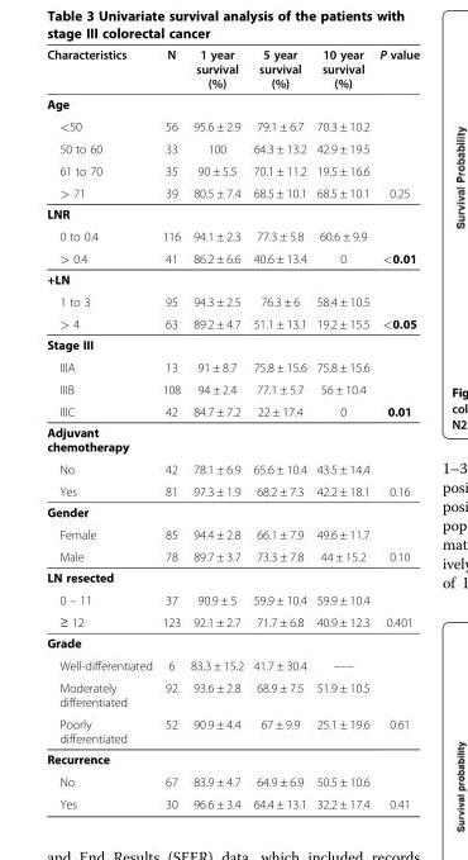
<table><thead><tr><td>Characteristics</td><td>N</td><td>1 year survival (%)</td><td>5 year survival (%)</td><td>10 year survival (%)</td><td>P value</td></tr></thead><tbody><tr><td colspan="6">Age</td></tr><tr><td>&lt;50</td><td>56</td><td>95.6 ± 2.9</td><td>79.1 ± 6.7</td><td>70.3 ± 10.2</td><td></td></tr><tr><td>50 to 60</td><td>33</td><td>100</td><td>64.3 ± 13.2</td><td>42.9 ± 19.5</td><td></td></tr><tr><td>61 to 70</td><td>35</td><td>90 ± 5.5</td><td>70.1 ± 11.2</td><td>19.5 ± 16.6</td><td></td></tr><tr><td>&gt; 71</td><td>39</td><td>80.5 ± 7.4</td><td>68.5 ± 10.1</td><td>68.5 ± 10.1</td><td>0.25</td></tr><tr><td colspan="6">LNR</td></tr><tr><td>0 to 0.4</td><td>116</td><td>94.1 ± 2.3</td><td>77.3 ± 5.8</td><td>60.6 ± 9.9</td><td></td></tr><tr><td>&gt; 0.4</td><td>41</td><td>86.2 ± 6.6</td><td>40.6 ± 13.4</td><td>0</td><td>&lt;0.01</td></tr><tr><td colspan="6">+LN</td></tr><tr><td>1 to 3</td><td>95</td><td>94.3 ± 2.5</td><td>76.3 ± 6</td><td>58.4 ± 10.5</td><td></td></tr><tr><td>&gt; 4</td><td>63</td><td>89.2 ± 4.7</td><td>51.1 ± 13.1</td><td>19.2 ± 15.5</td><td>&lt;0.05</td></tr><tr><td colspan="6">Stage III</td></tr><tr><td>IIIA</td><td>13</td><td>91 ± 8.7</td><td>75.8 ± 15.6</td><td>75.8 ± 15.6</td><td></td></tr><tr><td>IIIB</td><td>108</td><td>94 ± 2.4</td><td>77.1 ± 5.7</td><td>56 ± 10.4</td><td></td></tr><tr><td>IIIC</td><td>42</td><td>84.7 ± 7.2</td><td>22 ± 17.4</td><td>0</td><td>0.01</td></tr><tr><td colspan="6">Adjuvant chemotherapy</td></tr><tr><td>No</td><td>42</td><td>78.1 ± 6.9</td><td>65.6 ± 10.4</td><td>43.5 ± 14.4</td><td></td></tr><tr><td>Yes</td><td>81</td><td>97.3 ± 1.9</td><td>68.2 ± 7.3</td><td>42.2 ± 18.1</td><td>0.16</td></tr><tr><td colspan="6">Gender</td></tr><tr><td>Female</td><td>85</td><td>94.4 ± 2.8</td><td>66.1 ± 7.9</td><td>49.6 ± 11.7</td><td></td></tr><tr><td>Male</td><td>78</td><td>89.7 ± 3.7</td><td>73.3 ± 7.8</td><td>44 ± 15.2</td><td>0.10</td></tr><tr><td colspan="6">LN resected</td></tr><tr><td>0 – 11</td><td>37</td><td>90.9 ± 5</td><td>59.9 ± 10.4</td><td>59.9 ± 10.4</td><td></td></tr><tr><td>≥ 12</td><td>123</td><td>92.1 ± 2.7</td><td>71.7 ± 6.8</td><td>40.9 ± 12.3</td><td>0.401</td></tr><tr><td colspan="6">Grade</td></tr><tr><td>Well-differentiated</td><td>6</td><td>83.3 ± 15.2</td><td>41.7 ± 30.4</td><td>–––</td><td></td></tr><tr><td>Moderately differentiated</td><td>92</td><td>93.6 ± 2.8</td><td>68.9 ± 7.5</td><td>51.9 ± 10.5</td><td></td></tr><tr><td>Poorly differentiated</td><td>52</td><td>90.9 ± 4.4</td><td>67 ± 9.9</td><td>25.1 ± 19.6</td><td>0.61</td></tr><tr><td colspan="6">Recurrence</td></tr><tr><td>No</td><td>67</td><td>83.9 ± 4.7</td><td>64.9 ± 6.9</td><td>50.5 ± 10.6</td><td></td></tr><tr><td>Yes</td><td>30</td><td>96.6 ± 3.4</td><td>64.4 ± 13.1</td><td>32.2 ± 17.4</td><td>0.41</td></tr></tbody></table>